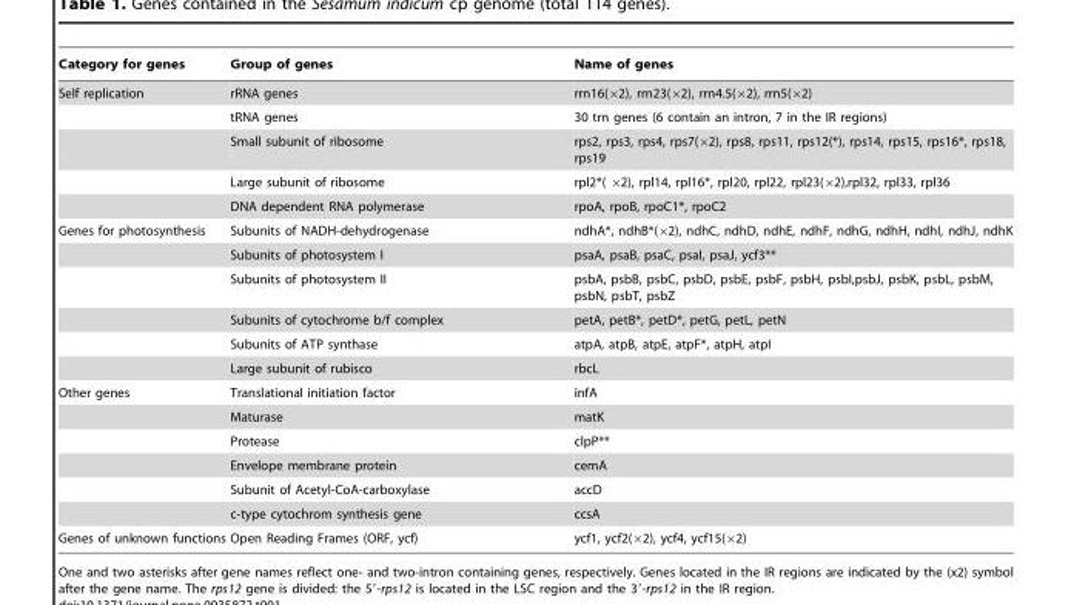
<table><thead><tr><td>Category for genes</td><td>Group of genes</td><td>Name of genes</td></tr></thead><tbody><tr><td rowspan="5">Self replication</td><td>rRNA genes</td><td>rrn16(×2), rrn23(×2), rrn4.5(×2), rrn5(×2)</td></tr><tr><td>tRNA genes</td><td>30 trn genes (6 contain an intron, 7 in the IR regions)</td></tr><tr><td>Small subunit of ribosome</td><td>rps2, rps3, rps4, rps7(×2), rps8, rps11, rps12(*), rps14, rps15, rps16*, rps18, rps19</td></tr><tr><td>Large subunit of ribosome</td><td>rpl2*( ×2), rpl14, rpl16*, rpl20, rpl22, rpl23(×2),rpl32, rpl33, rpl36</td></tr><tr><td>DNA dependent RNA polymerase</td><td>rpoA, rpoB, rpoC1*, rpoC2</td></tr><tr><td rowspan="6">Genes for photosynthesis</td><td>Subunits of NADH-dehydrogenase</td><td>ndhA*, ndhB*(×2), ndhC, ndhD, ndhE, ndhF, ndhG, ndhH, ndhI, ndhJ, ndhK</td></tr><tr><td>Subunits of photosystem I</td><td>psaA, psaB, psaC, psaI, psaJ, ycf3**</td></tr><tr><td>Subunits of photosystem II</td><td>psbA, psbB, psbC, psbD, psbE, psbF, psbH, psbI,psbJ, psbK, psbL, psbM, psbN, psbT, psbZ</td></tr><tr><td>Subunits of cytochrome b/f complex</td><td>petA, petB*, petD*, petG, petL, petN</td></tr><tr><td>Subunits of ATP synthase</td><td>atpA, atpB, atpE, atpF*, atpH, atpI</td></tr><tr><td>Large subunit of rubisco</td><td>rbcL</td></tr><tr><td rowspan="6">Other genes</td><td>Translational initiation factor</td><td>infA</td></tr><tr><td>Maturase</td><td>matK</td></tr><tr><td>Protease</td><td>clpP**</td></tr><tr><td>Envelope membrane protein</td><td>cemA</td></tr><tr><td>Subunit of Acetyl-CoA-carboxylase</td><td>accD</td></tr><tr><td>c-type cytochrom synthesis gene</td><td>ccsA</td></tr><tr><td>Genes of unknown functions</td><td>Open Reading Frames (ORF, ycf)</td><td>ycf1, ycf2(×2), ycf4, ycf15(×2)</td></tr></tbody></table>